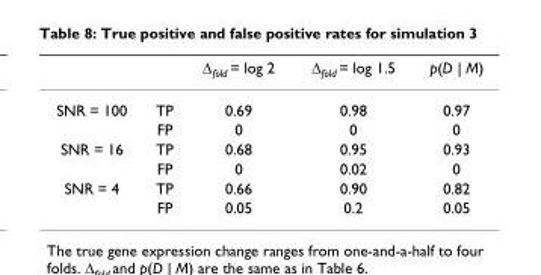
<table><thead><tr><td></td><td></td><td>∆fold = log 2</td><td>∆fold = log 1.5</td><td>p(D | M)</td></tr></thead><tbody><tr><td rowspan="2">SNR = 100</td><td>TP</td><td>0.69</td><td>0.98</td><td>0.97</td></tr><tr><td>FP</td><td>0</td><td>0</td><td>0</td></tr><tr><td rowspan="2">SNR = 16</td><td>TP</td><td>0.68</td><td>0.95</td><td>0.93</td></tr><tr><td>FP</td><td>0</td><td>0.02</td><td>0</td></tr><tr><td rowspan="2">SNR = 4</td><td>TP</td><td>0.66</td><td>0.90</td><td>0.82</td></tr><tr><td>FP</td><td>0.05</td><td>0.2</td><td>0.05</td></tr></tbody></table>